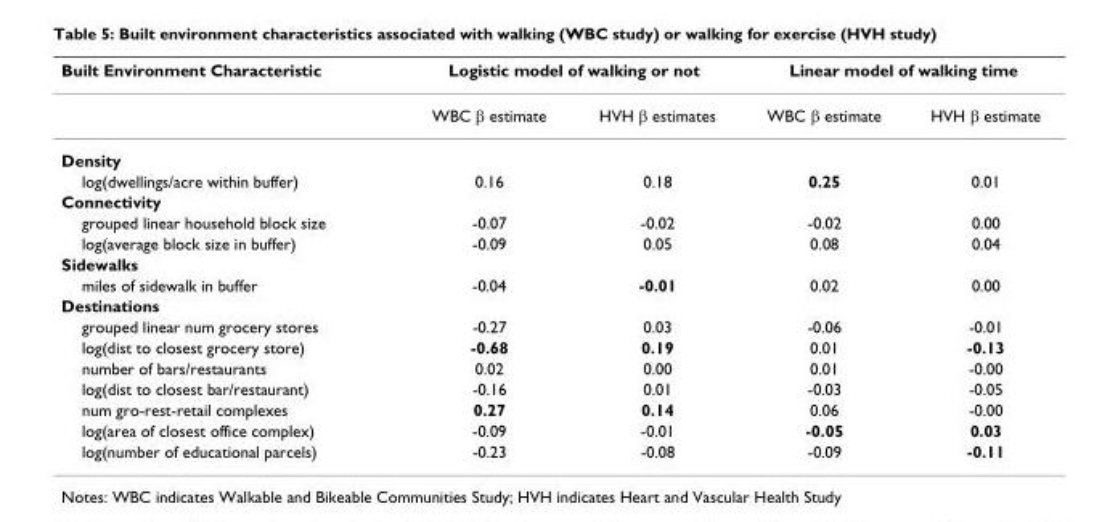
<table><thead><tr><td rowspan="2">Built Environment Characteristic</td><td colspan="2">Logistic model of walking or not</td><td colspan="2">Linear model of walking time</td></tr><tr><td>WBC β estimate</td><td>HVH β estimates</td><td>WBC β estimate</td><td>HVH β estimate</td></tr></thead><tbody><tr><td colspan="5">Density</td></tr><tr><td>log(dwellings/acre within buffer)</td><td>0.16</td><td>0.18</td><td>0.25</td><td>0.01</td></tr><tr><td colspan="5">Connectivity</td></tr><tr><td>grouped linear household block size</td><td>-0.07</td><td>-0.02</td><td>-0.02</td><td>0.00</td></tr><tr><td>log(average block size in buffer)</td><td>-0.09</td><td>0.05</td><td>0.08</td><td>0.04</td></tr><tr><td colspan="5">Sidewalks</td></tr><tr><td>miles of sidewalk in buffer</td><td>-0.04</td><td>-0.01</td><td>0.02</td><td>0.00</td></tr><tr><td colspan="5">Destinations</td></tr><tr><td>grouped linear num grocery stores</td><td>-0.27</td><td>0.03</td><td>-0.06</td><td>-0.01</td></tr><tr><td>log(dist to closest grocery store)</td><td>-0.68</td><td>0.19</td><td>0.01</td><td>-0.13</td></tr><tr><td>number of bars/restaurants</td><td>0.02</td><td>0.00</td><td>0.01</td><td>-0.00</td></tr><tr><td>log(dist to closest bar/restaurant)</td><td>-0.16</td><td>0.01</td><td>-0.03</td><td>-0.05</td></tr><tr><td>num gro-rest-retail complexes</td><td>0.27</td><td>0.14</td><td>0.06</td><td>-0.00</td></tr><tr><td>log(area of closest office complex)</td><td>-0.09</td><td>-0.01</td><td>-0.05</td><td>0.03</td></tr><tr><td>log(number of educational parcels)</td><td>-0.23</td><td>-0.08</td><td>-0.09</td><td>-0.11</td></tr></tbody></table>